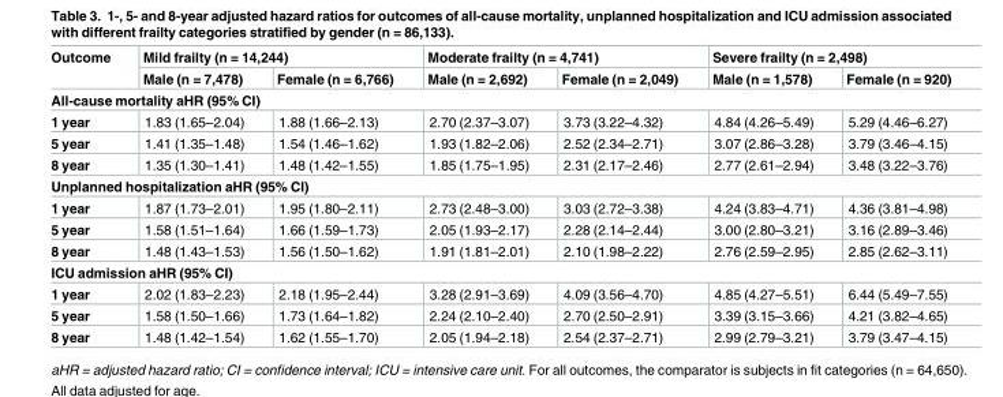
<table><thead><tr><td rowspan="2">Outcome</td><td colspan="2">Mild frailty (n = 14,244)</td><td colspan="2">Moderate frailty (n = 4,741)</td><td colspan="2">Severe frailty (n = 2,498)</td></tr><tr><td>Male (n = 7,478)</td><td>Female (n = 6,766)</td><td>Male (n = 2,692)</td><td>Female (n = 2,049)</td><td>Male (n = 1,578)</td><td>Female (n = 920)</td></tr></thead><tbody><tr><td colspan="7">All-cause mortality aHR (95% CI)</td></tr><tr><td>1 year</td><td>1.83 (1.65–2.04)</td><td>1.88 (1.66–2.13)</td><td>2.70 (2.37–3.07)</td><td>3.73 (3.22–4.32)</td><td>4.84 (4.26–5.49)</td><td>5.29 (4.46–6.27)</td></tr><tr><td>5 year</td><td>1.41 (1.35–1.48)</td><td>1.54 (1.46–1.62)</td><td>1.93 (1.82–2.06)</td><td>2.52 (2.34–2.71)</td><td>3.07 (2.86–3.28)</td><td>3.79 (3.46–4.15)</td></tr><tr><td>8 year</td><td>1.35 (1.30–1.41)</td><td>1.48 (1.42–1.55)</td><td>1.85 (1.75–1.95)</td><td>2.31 (2.17–2.46)</td><td>2.77 (2.61–2.94)</td><td>3.48 (3.22–3.76)</td></tr><tr><td colspan="7">Unplanned hospitalization aHR (95% CI)</td></tr><tr><td>1 year</td><td>1.87 (1.73–2.01)</td><td>1.95 (1.80–2.11)</td><td>2.73 (2.48–3.00)</td><td>3.03 (2.72–3.38)</td><td>4.24 (3.83–4.71)</td><td>4.36 (3.81–4.98)</td></tr><tr><td>5 year</td><td>1.58 (1.51–1.64)</td><td>1.66 (1.59–1.73)</td><td>2.05 (1.93–2.17)</td><td>2.28 (2.14–2.44)</td><td>3.00 (2.80–3.21)</td><td>3.16 (2.89–3.46)</td></tr><tr><td>8 year</td><td>1.48 (1.43–1.53)</td><td>1.56 (1.50–1.62)</td><td>1.91 (1.81–2.01)</td><td>2.10 (1.98–2.22)</td><td>2.76 (2.59–2.95)</td><td>2.85 (2.62–3.11)</td></tr><tr><td colspan="7">ICU admission aHR (95% CI)</td></tr><tr><td>1 year</td><td>2.02 (1.83–2.23)</td><td>2.18 (1.95–2.44)</td><td>3.28 (2.91–3.69)</td><td>4.09 (3.56–4.70)</td><td>4.85 (4.27–5.51)</td><td>6.44 (5.49–7.55)</td></tr><tr><td>5 year</td><td>1.58 (1.50–1.66)</td><td>1.73 (1.64–1.82)</td><td>2.24 (2.10–2.40)</td><td>2.70 (2.50–2.91)</td><td>3.39 (3.15–3.66)</td><td>4.21 (3.82–4.65)</td></tr><tr><td>8 year</td><td>1.48 (1.42–1.54)</td><td>1.62 (1.55–1.70)</td><td>2.05 (1.94–2.18)</td><td>2.54 (2.37–2.71)</td><td>2.99 (2.79–3.21)</td><td>3.79 (3.47–4.15)</td></tr></tbody></table>